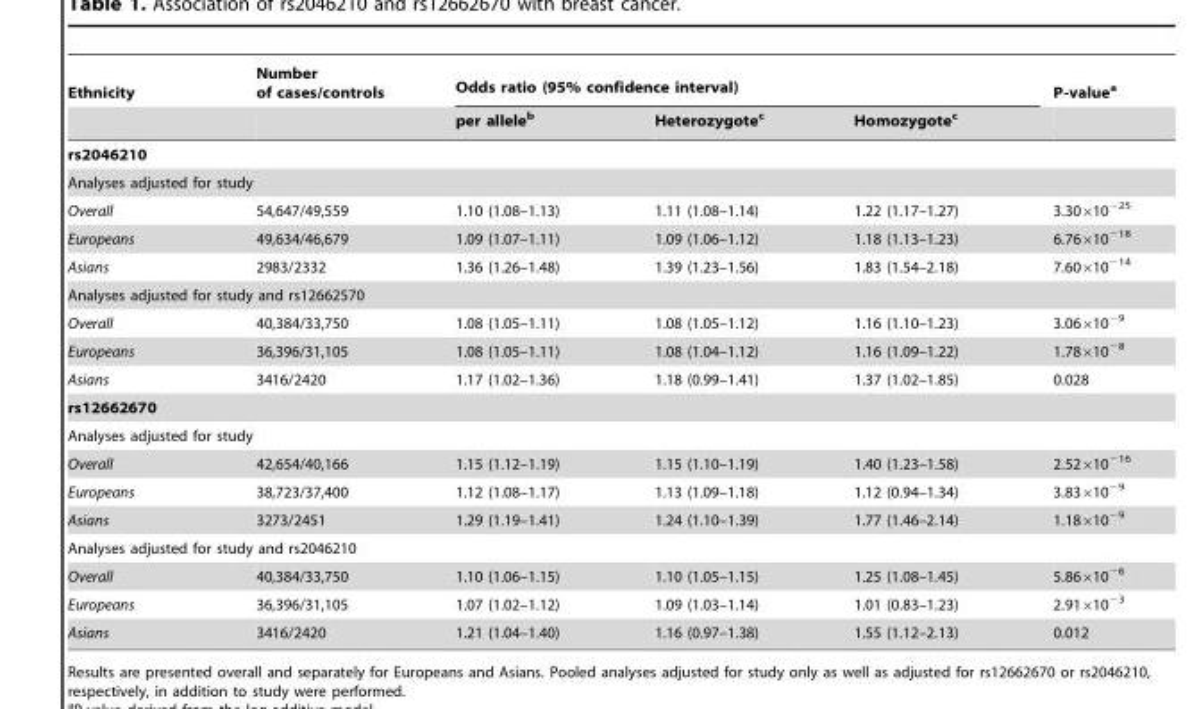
<table><thead><tr><td rowspan="2">Ethnicity</td><td rowspan="2">Number of cases/controls</td><td colspan="3">Odds ratio (95% confidence interval)</td><td rowspan="2">P-value<sup>a</sup></td></tr><tr><td>per allele<sup>b</sup></td><td>Heterozygote<sup>c</sup></td><td>Homozygote<sup>c</sup></td></tr></thead><tbody><tr><td colspan="6">rs2046210</td></tr><tr><td colspan="6">Analyses adjusted for study</td></tr><tr><td>Overall</td><td>54,647/49,559</td><td>1.10 (1.08–1.13)</td><td>1.11 (1.08–1.14)</td><td>1.22 (1.17–1.27)</td><td>3.30×10<sup>−25</sup></td></tr><tr><td>Europeans</td><td>49,634/46,679</td><td>1.09 (1.07–1.11)</td><td>1.09 (1.06–1.12)</td><td>1.18 (1.13–1.23)</td><td>6.76×10<sup>−18</sup></td></tr><tr><td>Asians</td><td>2983/2332</td><td>1.36 (1.26–1.48)</td><td>1.39 (1.23–1.56)</td><td>1.83 (1.54–2.18)</td><td>7.60×10<sup>−14</sup></td></tr><tr><td colspan="6">Analyses adjusted for study and rs12662570</td></tr><tr><td>Overall</td><td>40,384/33,750</td><td>1.08 (1.05–1.11)</td><td>1.08 (1.05–1.12)</td><td>1.16 (1.10–1.23)</td><td>3.06×10<sup>−9</sup></td></tr><tr><td>Europeans</td><td>36,396/31,105</td><td>1.08 (1.05–1.11)</td><td>1.08 (1.04–1.12)</td><td>1.16 (1.09–1.22)</td><td>1.78×10<sup>−8</sup></td></tr><tr><td>Asians</td><td>3416/2420</td><td>1.17 (1.02–1.36)</td><td>1.18 (0.99–1.41)</td><td>1.37 (1.02–1.85)</td><td>0.028</td></tr><tr><td colspan="6">rs12662670</td></tr><tr><td colspan="6">Analyses adjusted for study</td></tr><tr><td>Overall</td><td>42,654/40,166</td><td>1.15 (1.12–1.19)</td><td>1.15 (1.10–1.19)</td><td>1.40 (1.23–1.58)</td><td>2.52×10<sup>−16</sup></td></tr><tr><td>Europeans</td><td>38,723/37,400</td><td>1.12 (1.08–1.17)</td><td>1.13 (1.09–1.18)</td><td>1.12 (0.94–1.34)</td><td>3.83×10<sup>−9</sup></td></tr><tr><td>Asians</td><td>3273/2451</td><td>1.29 (1.19–1.41)</td><td>1.24 (1.10–1.39)</td><td>1.77 (1.46–2.14)</td><td>1.18×10<sup>−9</sup></td></tr><tr><td colspan="6">Analyses adjusted for study and rs2046210</td></tr><tr><td>Overall</td><td>40,384/33,750</td><td>1.10 (1.06–1.15)</td><td>1.10 (1.05–1.15)</td><td>1.25 (1.08–1.45)</td><td>5.86×10<sup>−6</sup></td></tr><tr><td>Europeans</td><td>36,396/31,105</td><td>1.07 (1.02–1.12)</td><td>1.09 (1.03–1.14)</td><td>1.01 (0.83–1.23)</td><td>2.91×10<sup>−3</sup></td></tr><tr><td>Asians</td><td>3416/2420</td><td>1.21 (1.04–1.40)</td><td>1.16 (0.97–1.38)</td><td>1.55 (1.12–2.13)</td><td>0.012</td></tr></tbody></table>